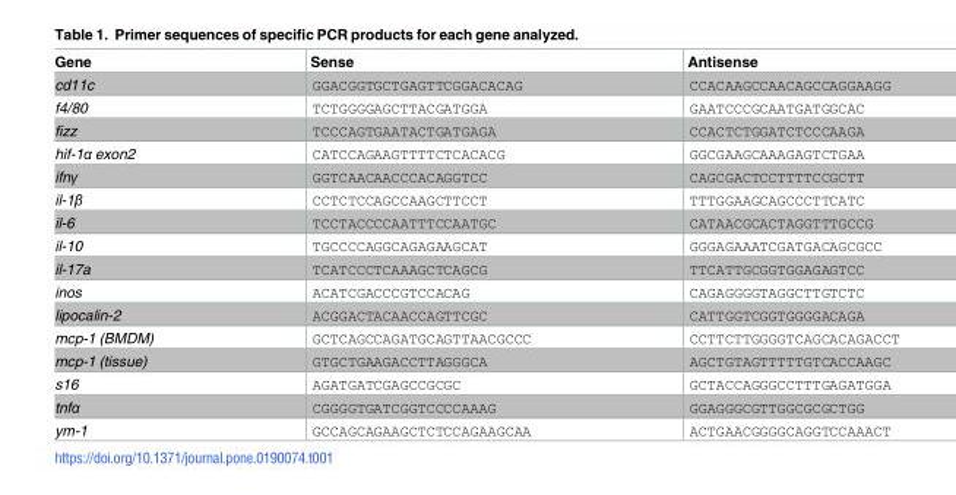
<table><thead><tr><td>Gene</td><td>Sense</td><td>Antisense</td></tr></thead><tbody><tr><td>cd11c</td><td>GGACGGTGCTGAGTTCGGACACAG</td><td>CCACAAGCCAACAGCCAGGAAGG</td></tr><tr><td>f4/80</td><td>TCTGGGGAGCTTACGATGGA</td><td>GAATCCCGCAATGATGGCAC</td></tr><tr><td>fizz</td><td>TCCCAGTGAATACTGATGAGA</td><td>CCACTCTGGATCTCCCAAGA</td></tr><tr><td>hif-1α exon2</td><td>CATCCAGAAGTTTTCTCACACG</td><td>GGCGAAGCAAAGAGTCTGAA</td></tr><tr><td>ifnγ</td><td>GGTCAACAACCCACAGGTCC</td><td>CAGCGACTCCTTTTCCGCTT</td></tr><tr><td>il-1β</td><td>CCTCTCCAGCCAAGCTTCCT</td><td>TTTGGAAGCAGCCCTTCATC</td></tr><tr><td>il-6</td><td>TCCTACCCCAATTTCCAATGC</td><td>CATAACGCACTAGGTTTGCCG</td></tr><tr><td>il-10</td><td>TGCCCCAGGCAGAGAAGCAT</td><td>GGGAGAAATCGATGACAGCGCC</td></tr><tr><td>il-17a</td><td>TCATCCCTCAAAGCTCAGCG</td><td>TTCATTGCGGTGGAGAGTCC</td></tr><tr><td>inos</td><td>ACATCGACCCGTCCACAG</td><td>CAGAGGGGTAGGCTTGTCTC</td></tr><tr><td>lipocalin-2</td><td>ACGGACTACAACCAGTTCGC</td><td>CATTGGTCGGTGGGGACAGA</td></tr><tr><td>mcp-1 (BMDM)</td><td>GCTCAGCCAGATGCAGTTAACGCCC</td><td>CCTTCTTGGGGTCAGCACAGACCT</td></tr><tr><td>mcp-1 (tissue)</td><td>GTGCTGAAGACCTTAGGGCA</td><td>AGCTGTAGTTTTTGTCACCAAGC</td></tr><tr><td>s16</td><td>AGATGATCGAGCCGCGC</td><td>GCTACCAGGGCCTTTGAGATGGA</td></tr><tr><td>tnfα</td><td>CGGGGTGATCGGTCCCCAAAG</td><td>GGAGGGCGTTGGCGCGCTGG</td></tr><tr><td>ym-1</td><td>GCCAGCAGAAGCTCTCCAGAAGCAA</td><td>ACTGAACGGGGCAGGTCCAAACT</td></tr></tbody></table>